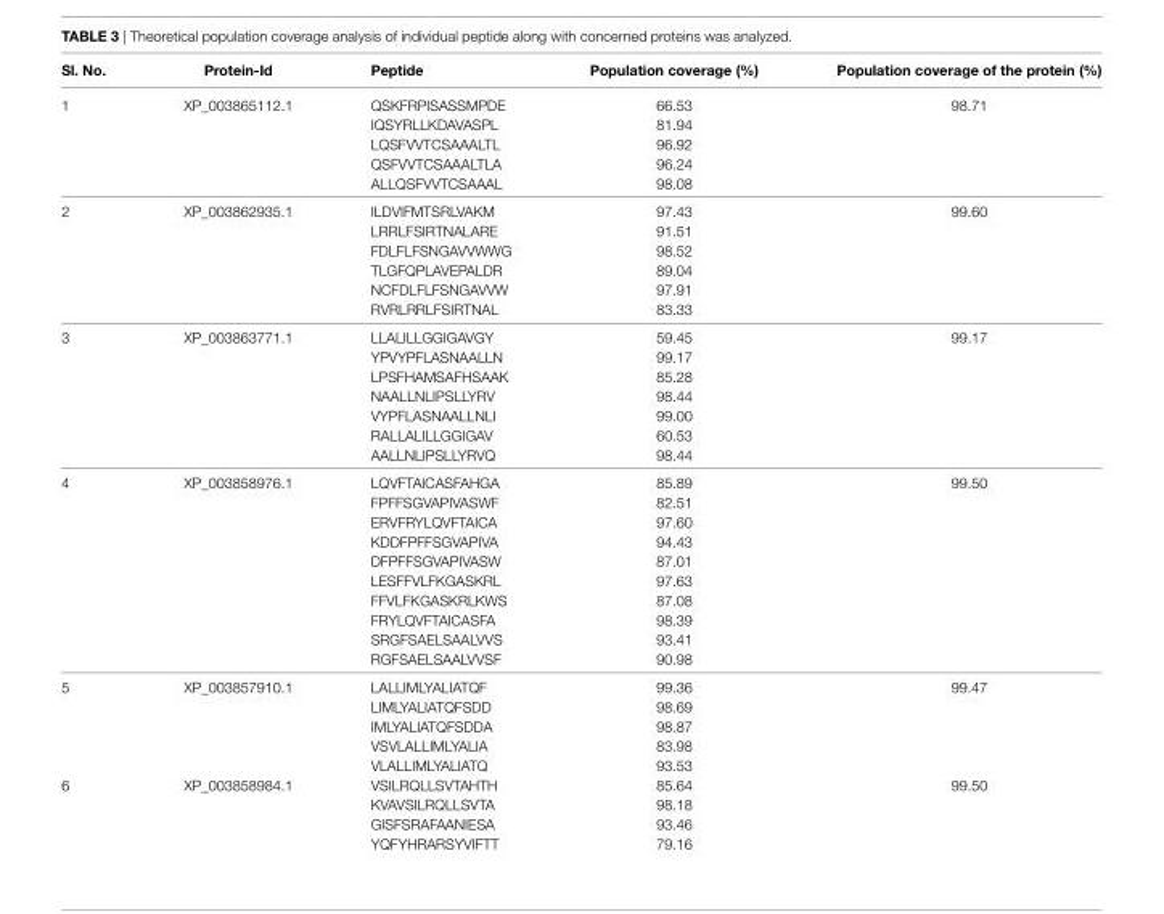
<table><thead><tr><td>sl. no.</td><td>Protein-id</td><td>Peptide</td><td>Population coverage (%)</td><td>Population coverage of the protein (%)</td></tr></thead><tbody><tr><td rowspan="5">1</td><td>XP_003865112.1</td><td>QSKFRPISASSMPDE</td><td>66.53</td><td rowspan="5">98.71</td></tr><tr><td></td><td>IQSYRLLKDAVASPL</td><td>81.94</td></tr><tr><td></td><td>LQSFVVTCSAAALTL</td><td>96.92</td></tr><tr><td></td><td>QSFVVTCSAAALTLA</td><td>96.24</td></tr><tr><td></td><td>ALLQSFVVTCSAAAL</td><td>98.08</td></tr><tr><td rowspan="6">2</td><td>XP_003862935.1</td><td>ILDVIFMTSRLVAKM</td><td>97.43</td><td rowspan="6">99.60</td></tr><tr><td></td><td>LRRLFSIRTNALARE</td><td>91.51</td></tr><tr><td></td><td>FDLFLFSNGAVVWWG</td><td>98.52</td></tr><tr><td></td><td>TLGFQPLAVEPALDR</td><td>89.04</td></tr><tr><td></td><td>NCFDLFLFSNGAVVW</td><td>97.91</td></tr><tr><td></td><td>RVRLRRLFSIRTNAL</td><td>83.33</td></tr><tr><td rowspan="7">3</td><td>XP_003863771.1</td><td>LLALILLGGIGAVGY</td><td>59.45</td><td rowspan="7">99.17</td></tr><tr><td></td><td>YPVYPFLASNAALLN</td><td>99.17</td></tr><tr><td></td><td>LPSFHAMSAFHSAAK</td><td>85.28</td></tr><tr><td></td><td>NAALLNLIPSLLYRV</td><td>98.44</td></tr><tr><td></td><td>VYPFLASNAALLNLI</td><td>99.00</td></tr><tr><td></td><td>RALLALILLGGIGAV</td><td>60.53</td></tr><tr><td></td><td>AALLNLIPSLLYRVQ</td><td>98.44</td></tr><tr><td rowspan="10">4</td><td>XP_003858976.1</td><td>LQVFTAICASFAHGA</td><td>85.89</td><td rowspan="10">99.50</td></tr><tr><td></td><td>FPFFSGVAPIVASWF</td><td>82.51</td></tr><tr><td></td><td>ERVFRYLQVFTAICA</td><td>97.60</td></tr><tr><td></td><td>KDDFPFFSGVAPIVA</td><td>94.43</td></tr><tr><td></td><td>DFPFFSGVAPIVASW</td><td>87.01</td></tr><tr><td></td><td>LESFFVLFKGASKRL</td><td>97.63</td></tr><tr><td></td><td>FFVLFKGASKRLKWS</td><td>87.08</td></tr><tr><td></td><td>FRYLQVFTAICASFA</td><td>98.39</td></tr><tr><td></td><td>SRGFSAELSAALVVS</td><td>93.41</td></tr><tr><td></td><td>RGFSAELSAALVVSF</td><td>90.98</td></tr><tr><td rowspan="5">5</td><td>XP_003857910.1</td><td>LALLIMLYALIATQF</td><td>99.36</td><td rowspan="5">99.47</td></tr><tr><td></td><td>LIMLYALIATQFSDD</td><td>98.69</td></tr><tr><td></td><td>IMLYALIATQFSDDA</td><td>98.87</td></tr><tr><td></td><td>VSVLALLIMLYALIA</td><td>83.98</td></tr><tr><td></td><td>VLALLIMLYALIATQ</td><td>93.53</td></tr><tr><td rowspan="4">6</td><td>XP_003858984.1</td><td>VSILRQLLSVTAHTH</td><td>85.64</td><td rowspan="4">99.50</td></tr><tr><td></td><td>KVAVSILRQLLSVTA</td><td>98.18</td></tr><tr><td></td><td>GISFSRAFAANIESA</td><td>93.46</td></tr><tr><td></td><td>YQFYHRARSYVIFTT</td><td>79.16</td></tr></tbody></table>